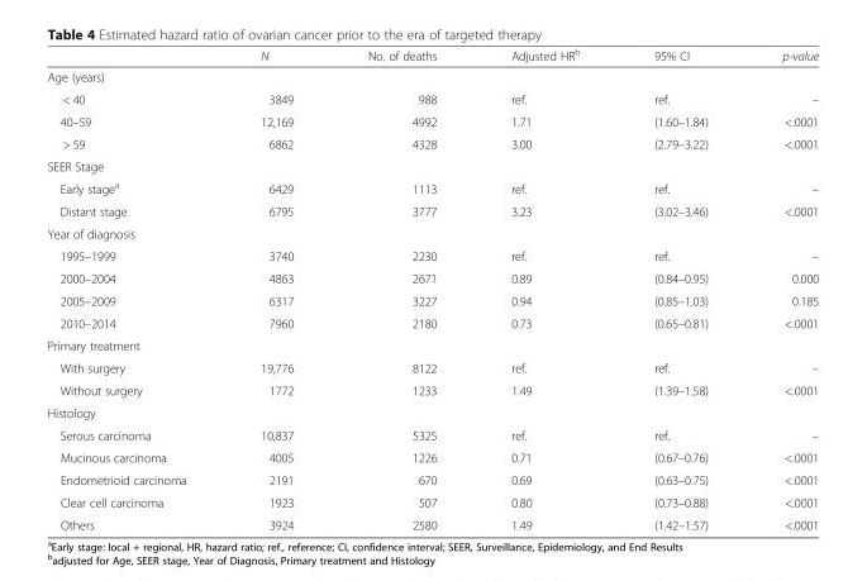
<table><thead><tr><td></td><td>N</td><td>No. of deaths</td><td>Adjusted HR<sup>b</sup></td><td>95% CI</td><td>p-value</td></tr></thead><tbody><tr><td colspan="6">Age (years)</td></tr><tr><td>&lt; 40</td><td>3849</td><td>988</td><td>ref.</td><td>ref.</td><td>–</td></tr><tr><td>40–59</td><td>12,169</td><td>4992</td><td>1.71</td><td>(1.60–1.84)</td><td>&lt;.0001</td></tr><tr><td>&gt; 59</td><td>6862</td><td>4328</td><td>3.00</td><td>(2.79–3.22)</td><td>&lt;.0001</td></tr><tr><td colspan="6">SEER Stage</td></tr><tr><td>Early stage<sup>a</sup></td><td>6429</td><td>1113</td><td>ref.</td><td>ref.</td><td>–</td></tr><tr><td>Distant stage</td><td>6795</td><td>3777</td><td>3.23</td><td>(3.02–3.46)</td><td>&lt;.0001</td></tr><tr><td colspan="6">Year of diagnosis</td></tr><tr><td>1995–1999</td><td>3740</td><td>2230</td><td>ref.</td><td>ref.</td><td>–</td></tr><tr><td>2000–2004</td><td>4863</td><td>2671</td><td>0.89</td><td>(0.84–0.95)</td><td>0.000</td></tr><tr><td>2005–2009</td><td>6317</td><td>3227</td><td>0.94</td><td>(0.85–1.03)</td><td>0.185</td></tr><tr><td>2010–2014</td><td>7960</td><td>2180</td><td>0.73</td><td>(0.65–0.81)</td><td>&lt;.0001</td></tr><tr><td colspan="6">Primary treatment</td></tr><tr><td>With surgery</td><td>19,776</td><td>8122</td><td>ref.</td><td>ref.</td><td>–</td></tr><tr><td>Without surgery</td><td>1772</td><td>1233</td><td>1.49</td><td>(1.39–1.58)</td><td>&lt;.0001</td></tr><tr><td colspan="6">Histology</td></tr><tr><td>Serous carcinoma</td><td>10,837</td><td>5325</td><td>ref.</td><td>ref.</td><td>–</td></tr><tr><td>Mucinous carcinoma</td><td>4005</td><td>1226</td><td>0.71</td><td>(0.67–0.76)</td><td>&lt;.0001</td></tr><tr><td>Endometrioid carcinoma</td><td>2191</td><td>670</td><td>0.69</td><td>(0.63–0.75)</td><td>&lt;.0001</td></tr><tr><td>Clear cell carcinoma</td><td>1923</td><td>507</td><td>0.80</td><td>(0.73–0.88)</td><td>&lt;.0001</td></tr><tr><td>Others</td><td>3924</td><td>2580</td><td>1.49</td><td>(1.42–1.57)</td><td>&lt;.0001</td></tr></tbody></table>